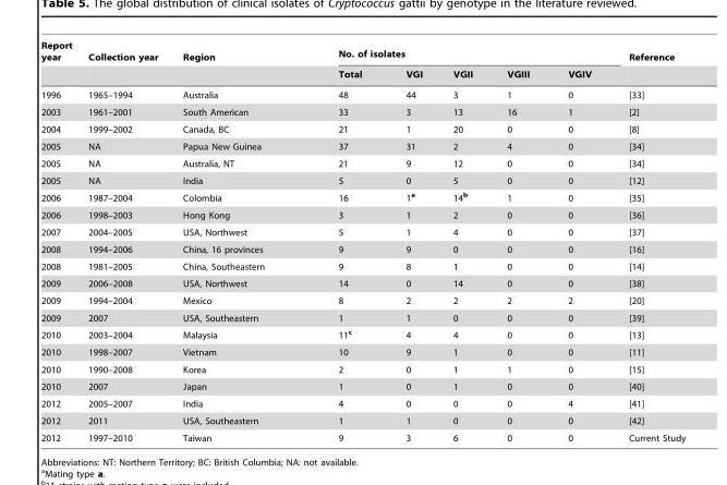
<table><thead><tr><td rowspan="2">Report year</td><td rowspan="2">Collection year</td><td rowspan="2">Region</td><td colspan="5">No. of isolates</td><td rowspan="2">Reference</td></tr><tr><td>Total</td><td>VGI</td><td>VGII</td><td>VGIII</td><td>VGIV</td></tr></thead><tbody><tr><td>1996</td><td>1965–1994</td><td>Australia</td><td>48</td><td>44</td><td>3</td><td>1</td><td>0</td><td>[33]</td></tr><tr><td>2003</td><td>1961–2001</td><td>South American</td><td>33</td><td>3</td><td>13</td><td>16</td><td>1</td><td>[2]</td></tr><tr><td>2004</td><td>1999–2002</td><td>Canada, BC</td><td>21</td><td>1</td><td>20</td><td>0</td><td>0</td><td>[8]</td></tr><tr><td>2005</td><td>NA</td><td>Papua New Guinea</td><td>37</td><td>31</td><td>2</td><td>4</td><td>0</td><td>[34]</td></tr><tr><td>2005</td><td>NA</td><td>Australia, NT</td><td>21</td><td>9</td><td>12</td><td>0</td><td>0</td><td>[34]</td></tr><tr><td>2005</td><td>NA</td><td>India</td><td>5</td><td>0</td><td>5</td><td>0</td><td>0</td><td>[12]</td></tr><tr><td>2006</td><td>1987–2004</td><td>Colombia</td><td>16</td><td>1<sup>a</sup></td><td>14<sup>b</sup></td><td>1</td><td>0</td><td>[35]</td></tr><tr><td>2006</td><td>1998–2003</td><td>Hong Kong</td><td>3</td><td>1</td><td>2</td><td>0</td><td>0</td><td>[36]</td></tr><tr><td>2007</td><td>2004–2005</td><td>USA, Northwest</td><td>5</td><td>1</td><td>4</td><td>0</td><td>0</td><td>[37]</td></tr><tr><td>2008</td><td>1994–2006</td><td>China, 16 provinces</td><td>9</td><td>9</td><td>0</td><td>0</td><td>0</td><td>[16]</td></tr><tr><td>2008</td><td>1981–2005</td><td>China, Southeastern</td><td>9</td><td>8</td><td>1</td><td>0</td><td>0</td><td>[14]</td></tr><tr><td>2009</td><td>2006–2008</td><td>USA, Northwest</td><td>14</td><td>0</td><td>14</td><td>0</td><td>0</td><td>[38]</td></tr><tr><td>2009</td><td>1994–2004</td><td>Mexico</td><td>8</td><td>2</td><td>2</td><td>2</td><td>2</td><td>[20]</td></tr><tr><td>2009</td><td>2007</td><td>USA, Southeastern</td><td>1</td><td>1</td><td>0</td><td>0</td><td>0</td><td>[39]</td></tr><tr><td>2010</td><td>2003–2004</td><td>Malaysia</td><td>11<sup>c</sup></td><td>4</td><td>4</td><td>0</td><td>0</td><td>[13]</td></tr><tr><td>2010</td><td>1998–2007</td><td>Vietnam</td><td>10</td><td>9</td><td>1</td><td>0</td><td>0</td><td>[11]</td></tr><tr><td>2010</td><td>1990–2008</td><td>Korea</td><td>2</td><td>0</td><td>1</td><td>1</td><td>0</td><td>[15]</td></tr><tr><td>2010</td><td>2007</td><td>Japan</td><td>1</td><td>0</td><td>1</td><td>0</td><td>0</td><td>[40]</td></tr><tr><td>2012</td><td>2005–2007</td><td>India</td><td>4</td><td>0</td><td>0</td><td>0</td><td>4</td><td>[41]</td></tr><tr><td>2012</td><td>2011</td><td>USA, Southeastern</td><td>1</td><td>1</td><td>0</td><td>0</td><td>0</td><td>[42]</td></tr><tr><td>2012</td><td>1997–2010</td><td>Taiwan</td><td>9</td><td>3</td><td>6</td><td>0</td><td>0</td><td>Current Study</td></tr></tbody></table>